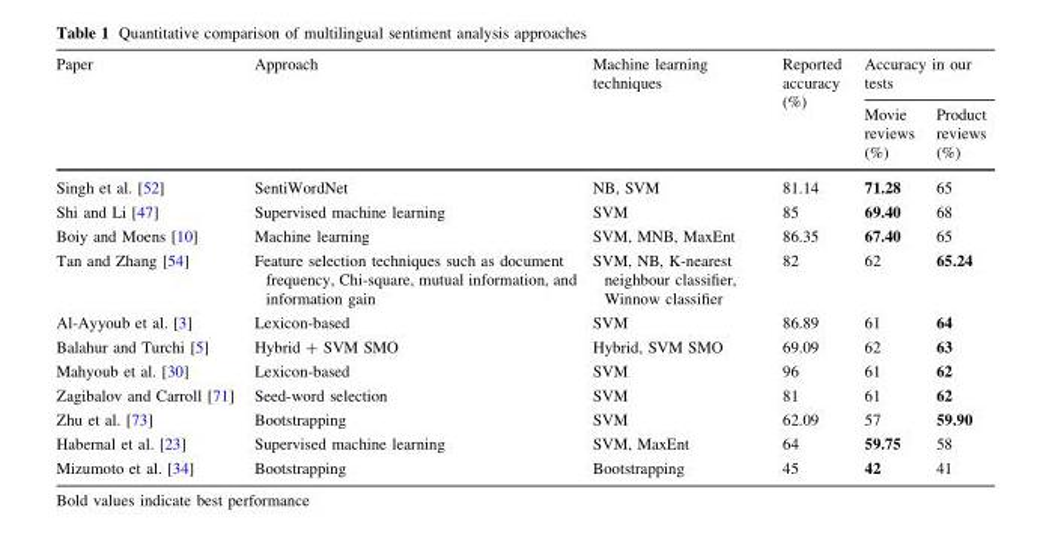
<table><thead><tr><td rowspan="2">Paper</td><td rowspan="2">Approach</td><td rowspan="2">Machine learning techniques</td><td rowspan="2">Reported accuracy (%)</td><td colspan="2">Accuracy in our tests</td></tr><tr><td>Movie reviews (%)</td><td>Product reviews (%)</td></tr></thead><tbody><tr><td>Singh et al. [52]</td><td>SentiWordNet</td><td>NB, SVM</td><td>81.14</td><td>71.28</td><td>65</td></tr><tr><td>Shi and Li [47]</td><td>Supervised machine learning</td><td>SVM</td><td>85</td><td>69.40</td><td>68</td></tr><tr><td>Boiy and Moens [10]</td><td>Machine learning</td><td>SVM, MNB, MaxEnt</td><td>86.35</td><td>67.40</td><td>65</td></tr><tr><td>Tan and Zhang [54]</td><td>Feature selection techniques such as document frequency, Chi-square, mutual information, and information gain</td><td>SVM, NB, K-nearest neighbour classifier, Winnow classifier</td><td>82</td><td>62</td><td>65.24</td></tr><tr><td>Al-Ayyoub et al. [3]</td><td>Lexicon-based</td><td>SVM</td><td>86.89</td><td>61</td><td>64</td></tr><tr><td>Balahur and Turchi [5]</td><td>Hybrid + SVM SMO</td><td>Hybrid, SVM SMO</td><td>69.09</td><td>62</td><td>63</td></tr><tr><td>Mahyoub et al. [30]</td><td>Lexicon-based</td><td>SVM</td><td>96</td><td>61</td><td>62</td></tr><tr><td>Zagibalov and Carroll [71]</td><td>Seed-word selection</td><td>SVM</td><td>81</td><td>61</td><td>62</td></tr><tr><td>Zhu et al. [73]</td><td>Bootstrapping</td><td>SVM</td><td>62.09</td><td>57</td><td>59.90</td></tr><tr><td>Habernal et al. [23]</td><td>Supervised machine learning</td><td>SVM, MaxEnt</td><td>64</td><td>59.75</td><td>58</td></tr><tr><td>Mizumoto et al. [34]</td><td>Bootstrapping</td><td>Bootstrapping</td><td>45</td><td>42</td><td>41</td></tr></tbody></table>